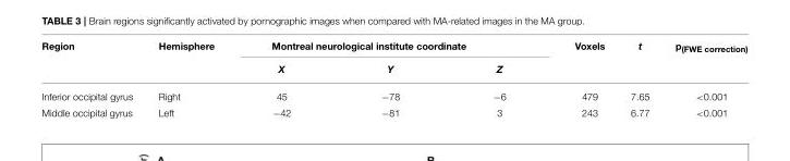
<table><thead><tr><td rowspan="2">Region</td><td rowspan="2">Hemisphere</td><td colspan="3">Montreal neurological institute coordinate</td><td rowspan="2">Voxels</td><td rowspan="2">t</td><td rowspan="2">p<sub>(FWE correction)</sub></td></tr><tr><td>X</td><td>Y</td><td>Z</td></tr></thead><tbody><tr><td>Inferior occipital gyrus</td><td>Right</td><td>45</td><td>−78</td><td>−6</td><td>479</td><td>7.65</td><td>&lt;0.001</td></tr><tr><td>Middle occipital gyrus</td><td>Left</td><td>−42</td><td>−81</td><td>3</td><td>243</td><td>6.77</td><td>&lt;0.001</td></tr></tbody></table>